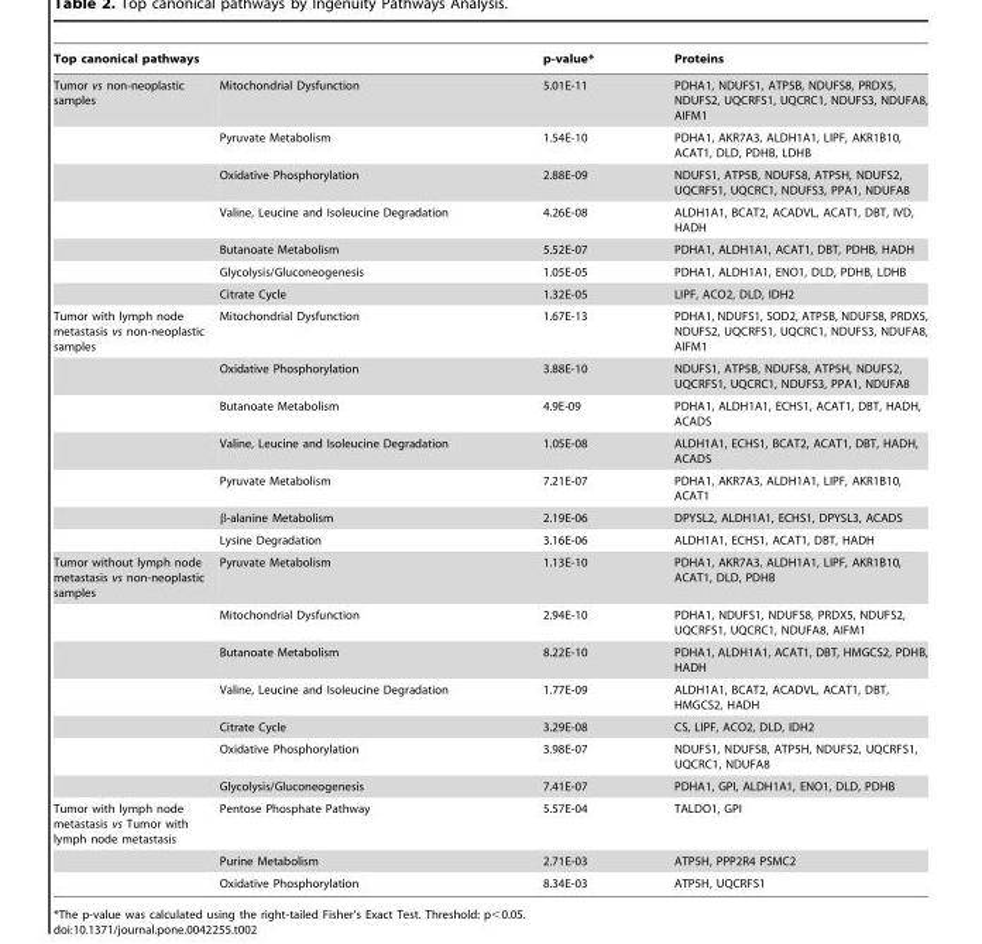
<table><thead><tr><td colspan="2">Top canonical pathways</td><td rowspan="2">p-value* 5.01E-11</td><td rowspan="2">Proteins PDHA1, NDUFS1, ATP5B, NDUFS8, PRDX5, NDUFS2, UQCRFS1, UQCRC1, NDUFS3, NDUFA8, AIFM1</td></tr><tr><td>Tumor vs non-neoplastic samples</td><td>Mitochondrial Dysfunction</td></tr></thead><tbody><tr><td></td><td>Pyruvate Metabolism</td><td>1.54E-10</td><td>PDHA1, AKR7A3, ALDH1A1, LIPF, AKR1B10, ACAT1, DLD, PDHB, LDHB</td></tr><tr><td></td><td>Oxidative Phosphorylation</td><td>2.88E-09</td><td>NDUFS1, ATP5B, NDUFS8, ATP5H, NDUFS2, UQCRFS1, UQCRC1, NDUFS3, PPA1, NDUFA8</td></tr><tr><td></td><td>Valine, Leucine and Isoleucine Degradation</td><td>4.26E-08</td><td>ALDH1A1, BCAT2, ACADVL, ACAT1, DBT, IVD, HADH</td></tr><tr><td></td><td>Butanoate Metabolism</td><td>5.52E-07</td><td>PDHA1, ALDH1A1, ACAT1, DBT, PDHB, HADH</td></tr><tr><td></td><td>Glycolysis/Gluconeogenesis</td><td>1.05E-05</td><td>PDHA1, ALDH1A1, ENO1, DLD, PDHB, LDHB</td></tr><tr><td></td><td>Citrate Cycle</td><td>1.32E-05</td><td>LIPF, ACO2, DLD, IDH2</td></tr><tr><td rowspan="7">Tumor with lymph node metastasis vs non-neoplastic samples</td><td>Mitochondrial Dysfunction</td><td>1.67E-13</td><td>PDHA1, NDUFS1, SOD2, ATP5B, NDUFS8, PRDX5, NDUFS2, UQCRFS1, UQCRC1, NDUFS3, NDUFA8, AIFM1</td></tr><tr><td>Oxidative Phosphorylation</td><td>3.88E-10</td><td>NDUFS1, ATP5B, NDUFS8, ATP5H, NDUFS2, UQCRFS1, UQCRC1, NDUFS3, PPA1, NDUFA8</td></tr><tr><td>Butanoate Metabolism</td><td>4.9E-09</td><td>PDHA1, ALDH1A1, ECHS1, ACAT1, DBT, HADH, ACADS</td></tr><tr><td>Valine, Leucine and Isoleucine Degradation</td><td>1.05E-08</td><td>ALDH1A1, ECHS1, BCAT2, ACAT1, DBT, HADH, ACADS</td></tr><tr><td>Pyruvate Metabolism</td><td>7.21E-07</td><td>PDHA1, AKR7A3, ALDH1A1, LIPF, AKR1B10, ACAT1</td></tr><tr><td>β-alanine Metabolism</td><td>2.19E-06</td><td>DPYSL2, ALDH1A1, ECHS1, DPYSL3, ACADS</td></tr><tr><td>Lysine Degradation</td><td>3.16E-06</td><td>ALDH1A1, ECHS1, ACAT1, DBT, HADH</td></tr><tr><td rowspan="7">Tumor without lymph node metastasis vs non-neoplastic samples</td><td>Pyruvate Metabolism</td><td>1.13E-10</td><td>PDHA1, AKR7A3, ALDH1A1, LIPF, AKR1B10, ACAT1, DLD, PDHB</td></tr><tr><td>Mitochondrial Dysfunction</td><td>2.94E-10</td><td>PDHA1, NDUFS1, NDUFS8, PRDX5, NDUFS2, UQCRFS1, UQCRC1, NDUFA8, AIFM1</td></tr><tr><td>Butanoate Metabolism</td><td>8.22E-10</td><td>PDHA1, ALDH1A1, ACAT1, DBT, HMGCS2, PDHB, HADH</td></tr><tr><td>Valine, Leucine and Isoleucine Degradation</td><td>1.77E-09</td><td>ALDH1A1, BCAT2, ACADVL, ACAT1, DBT, HMGCS2, HADH</td></tr><tr><td>Citrate Cycle</td><td>3.29E-08</td><td>CS, LIPF, ACO2, DLD, IDH2</td></tr><tr><td>Oxidative Phosphorylation</td><td>3.98E-07</td><td>NDUFS1, NDUFS8, ATP5H, NDUFS2, UQCRFS1, UQCRC1, NDUFA8</td></tr><tr><td>Glycolysis/Gluconeogenesis</td><td>7.41E-07</td><td>PDHA1, GPI, ALDH1A1, ENO1, DLD, PDHB</td></tr><tr><td rowspan="3">Tumor with lymph node metastasis vs Tumor with lymph node metastasis</td><td>Pentose Phosphate Pathway</td><td>5.57E-04</td><td>TALDO1, GPI</td></tr><tr><td>Purine Metabolism</td><td>2.71E-03</td><td>ATP5H, PPP2R4 PSMC2</td></tr><tr><td>Oxidative Phosphorylation</td><td>8.34E-03</td><td>ATP5H, UQCRFS1</td></tr></tbody></table>